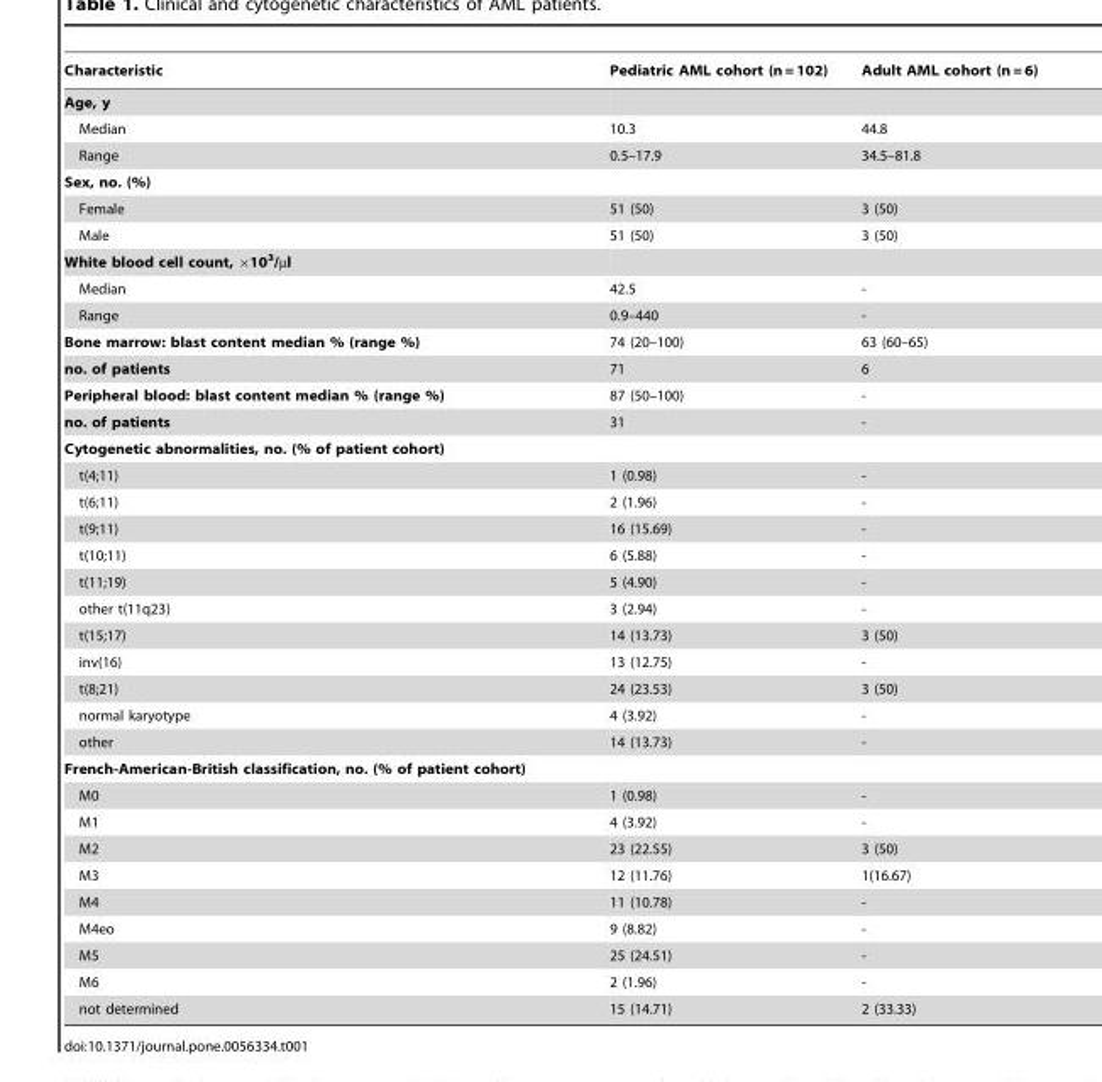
<table><thead><tr><td>Characteristic</td><td>Pediatric AML cohort (n = 102)</td><td>Adult AML cohort (n = 6)</td></tr></thead><tbody><tr><td colspan="3">Age, y</td></tr><tr><td>Median</td><td>10.3</td><td>44.8</td></tr><tr><td>Range</td><td>0.5–17.9</td><td>34.5–81.8</td></tr><tr><td colspan="3">Sex, no. (%)</td></tr><tr><td>Female</td><td>51 (50)</td><td>3 (50)</td></tr><tr><td>Male</td><td>51 (50)</td><td>3 (50)</td></tr><tr><td colspan="3">White blood cell count, ×10<sup>3</sup>/µl</td></tr><tr><td>Median</td><td>42.5</td><td>-</td></tr><tr><td>Range</td><td>0.9–440</td><td>-</td></tr><tr><td>Bone marrow: blast content median % (range %)</td><td>74 (20–100)</td><td>63 (60–65)</td></tr><tr><td>no. of patients</td><td>71</td><td>6</td></tr><tr><td>Peripheral blood: blast content median % (range %)</td><td>87 (50–100)</td><td>-</td></tr><tr><td>no. of patients</td><td>31</td><td>-</td></tr><tr><td colspan="3">Cytogenetic abnormalities, no. (% of patient cohort)</td></tr><tr><td>t(4;11)</td><td>1 (0.98)</td><td>-</td></tr><tr><td>t(6;11)</td><td>2 (1.96)</td><td>-</td></tr><tr><td>t(9;11)</td><td>16 (15.69)</td><td>-</td></tr><tr><td>t(10;11)</td><td>6 (5.88)</td><td>-</td></tr><tr><td>t(11;19)</td><td>5 (4.90)</td><td>-</td></tr><tr><td>other t(11q23)</td><td>3 (2.94)</td><td>-</td></tr><tr><td>t(15;17)</td><td>14 (13.73)</td><td>3 (50)</td></tr><tr><td>inv(16)</td><td>13 (12.75)</td><td>-</td></tr><tr><td>t(8;21)</td><td>24 (23.53)</td><td>3 (50)</td></tr><tr><td>normal karyotype</td><td>4 (3.92)</td><td>-</td></tr><tr><td>other</td><td>14 (13.73)</td><td>-</td></tr><tr><td colspan="3">French-American-British classification, no. (% of patient cohort)</td></tr><tr><td>M0</td><td>1 (0.98)</td><td>-</td></tr><tr><td>M1</td><td>4 (3.92)</td><td>-</td></tr><tr><td>M2</td><td>23 (22.55)</td><td>3 (50)</td></tr><tr><td>M3</td><td>12 (11.76)</td><td>1(16.67)</td></tr><tr><td>M4</td><td>11 (10.78)</td><td>-</td></tr><tr><td>M4eo</td><td>9 (8.82)</td><td>-</td></tr><tr><td>M5</td><td>25 (24.51)</td><td>-</td></tr><tr><td>M6</td><td>2 (1.96)</td><td>-</td></tr><tr><td>not determined</td><td>15 (14.71)</td><td>2 (33.33)</td></tr></tbody></table>